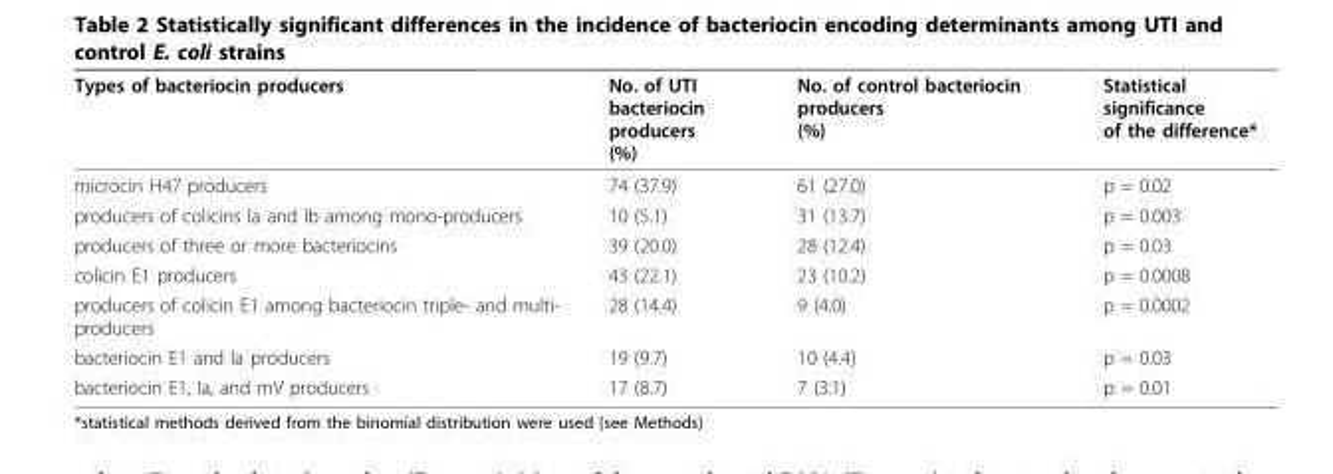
<table><thead><tr><td>Types of bacteriocin producers</td><td>No. of UTI bacteriocin producers (%)</td><td>No. of control bacteriocin producers (%)</td><td>Statistical significance of the difference*</td></tr></thead><tbody><tr><td>microcin H47 producers</td><td>74 (37.9)</td><td>61 (27.0)</td><td>p = 0.02</td></tr><tr><td>producers of colicins Ia and Ib among mono-producers</td><td>10 (5.1)</td><td>31 (13.7)</td><td>p = 0.003</td></tr><tr><td>producers of three or more bacteriocins</td><td>39 (20.0)</td><td>28 (12.4)</td><td>p = 0.03</td></tr><tr><td>colicin E1 producers</td><td>43 (22.1)</td><td>23 (10.2)</td><td>p = 0.0008</td></tr><tr><td>producers of colicin E1 among bacteriocin triple- and multi- producers</td><td>28 (14.4)</td><td>9 (4.0)</td><td>p = 0.0002</td></tr><tr><td>bacteriocin E1 and Ia producers</td><td>19 (9.7)</td><td>10 (4.4)</td><td>p = 0.03</td></tr><tr><td>bacteriocin E1, Ia, and mV producers</td><td>17 (8.7)</td><td>7 (3.1)</td><td>p = 0.01</td></tr></tbody></table>